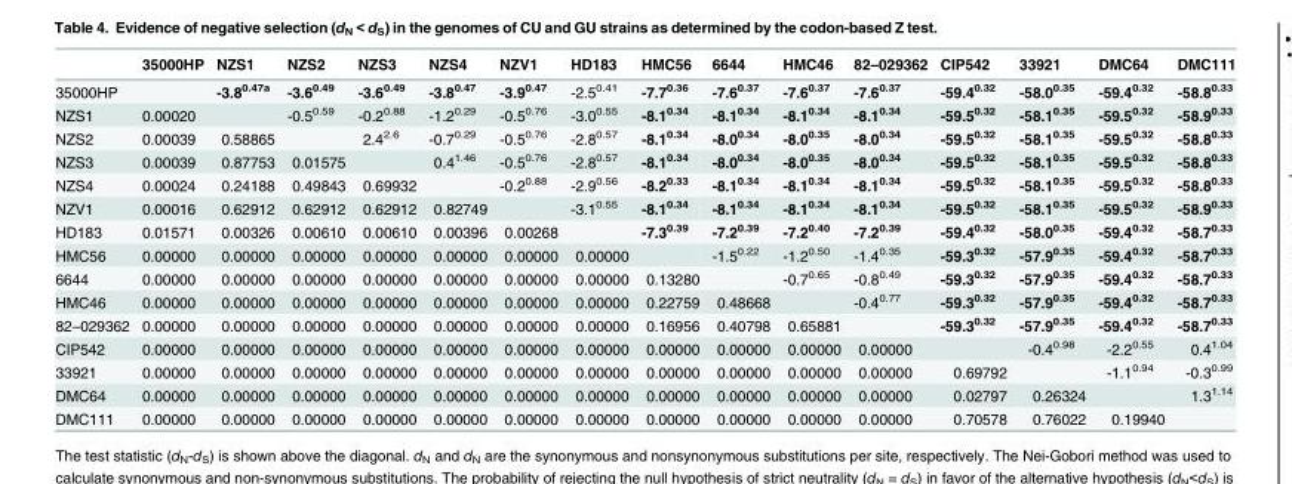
<table><thead><tr><td></td><td>35000HP</td><td>NZS1</td><td>NZS2</td><td>NZS3</td><td>NZS4</td><td>NZV1</td><td>HD183</td><td>HMC56</td><td>6644</td><td>HMC46</td><td>82–029362</td><td>CIP542</td><td>33921</td><td>DMC64</td><td>DMC111</td></tr></thead><tbody><tr><td>35000HP</td><td></td><td>-3.8<sup>0.47a</sup></td><td>-3.6<sup>0.49</sup></td><td>-3.6<sup>0.49</sup></td><td>-3.8<sup>0.47</sup></td><td>-3.9<sup>0.47</sup></td><td>-2.5<sup>0.41</sup></td><td>-7.7<sup>0.36</sup></td><td>-7.6<sup>0.37</sup></td><td>-7.6<sup>0.37</sup></td><td>-7.6<sup>0.37</sup></td><td>-59.4<sup>0.32</sup></td><td>-58.0<sup>0.35</sup></td><td>-59.4<sup>0.32</sup></td><td>-58.8<sup>0.33</sup></td></tr><tr><td>NZS1</td><td>0.00020</td><td></td><td>-0.5<sup>0.59</sup></td><td>-0.2<sup>0.88</sup></td><td>-1.2<sup>0.29</sup></td><td>-0.5<sup>0.76</sup></td><td>-3.0<sup>0.55</sup></td><td>-8.1<sup>0.34</sup></td><td>-8.1<sup>0.34</sup></td><td>-8.1<sup>0.34</sup></td><td>-8.1<sup>0.34</sup></td><td>-59.5<sup>0.32</sup></td><td>-58.1<sup>0.35</sup></td><td>-59.5<sup>0.32</sup></td><td>-58.9<sup>0.33</sup></td></tr><tr><td>NZS2</td><td>0.00039</td><td>0.58865</td><td></td><td>2.4<sup>2.6</sup></td><td>-0.7<sup>0.29</sup></td><td>-0.5<sup>0.76</sup></td><td>-2.8<sup>0.57</sup></td><td>-8.1<sup>0.34</sup></td><td>-8.0<sup>0.34</sup></td><td>-8.0<sup>0.35</sup></td><td>-8.0<sup>0.34</sup></td><td>-59.5<sup>0.32</sup></td><td>-58.1<sup>0.35</sup></td><td>-59.5<sup>0.32</sup></td><td>-58.8<sup>0.33</sup></td></tr><tr><td>NZS3</td><td>0.00039</td><td>0.87753</td><td>0.01575</td><td></td><td>0.4<sup>1.46</sup></td><td>-0.5<sup>0.76</sup></td><td>-2.8<sup>0.57</sup></td><td>-8.1<sup>0.34</sup></td><td>-8.0<sup>0.34</sup></td><td>-8.0<sup>0.35</sup></td><td>-8.0<sup>0.34</sup></td><td>-59.5<sup>0.32</sup></td><td>-58.1<sup>0.35</sup></td><td>-59.5<sup>0.32</sup></td><td>-58.8<sup>0.33</sup></td></tr><tr><td>NZS4</td><td>0.00024</td><td>0.24188</td><td>0.49843</td><td>0.69932</td><td></td><td>-0.2<sup>0.88</sup></td><td>-2.9<sup>0.56</sup></td><td>-8.2<sup>0.33</sup></td><td>-8.1<sup>0.34</sup></td><td>-8.1<sup>0.34</sup></td><td>-8.1<sup>0.34</sup></td><td>-59.5<sup>0.32</sup></td><td>-58.1<sup>0.35</sup></td><td>-59.5<sup>0.32</sup></td><td>-58.8<sup>0.33</sup></td></tr><tr><td>NZV1</td><td>0.00016</td><td>0.62912</td><td>0.62912</td><td>0.62912</td><td>0.82749</td><td></td><td>-3.1<sup>0.55</sup></td><td>-8.1<sup>0.34</sup></td><td>-8.1<sup>0.34</sup></td><td>-8.1<sup>0.34</sup></td><td>-8.1<sup>0.34</sup></td><td>-59.5<sup>0.32</sup></td><td>-58.1<sup>0.35</sup></td><td>-59.5<sup>0.32</sup></td><td>-58.9<sup>0.33</sup></td></tr><tr><td>HD183</td><td>0.01571</td><td>0.00326</td><td>0.00610</td><td>0.00610</td><td>0.00396</td><td>0.00268</td><td></td><td>-7.3<sup>0.39</sup></td><td>-7.2<sup>0.39</sup></td><td>-7.2<sup>0.40</sup></td><td>-7.2<sup>0.39</sup></td><td>-59.4<sup>0.32</sup></td><td>-58.0<sup>0.35</sup></td><td>-59.4<sup>0.32</sup></td><td>-58.7<sup>0.33</sup></td></tr><tr><td>HMC56</td><td>0.00000</td><td>0.00000</td><td>0.00000</td><td>0.00000</td><td>0.00000</td><td>0.00000</td><td>0.00000</td><td></td><td>-1.5<sup>0.22</sup></td><td>-1.2<sup>0.50</sup></td><td>-1.4<sup>0.35</sup></td><td>-59.3<sup>0.32</sup></td><td>-57.9<sup>0.35</sup></td><td>-59.4<sup>0.32</sup></td><td>-58.7<sup>0.33</sup></td></tr><tr><td>6644</td><td>0.00000</td><td>0.00000</td><td>0.00000</td><td>0.00000</td><td>0.00000</td><td>0.00000</td><td>0.00000</td><td>0.13280</td><td></td><td>-0.7<sup>0.65</sup></td><td>-0.8<sup>0.49</sup></td><td>-59.3<sup>0.32</sup></td><td>-57.9<sup>0.35</sup></td><td>-59.4<sup>0.32</sup></td><td>-58.7<sup>0.33</sup></td></tr><tr><td>HMC46</td><td>0.00000</td><td>0.00000</td><td>0.00000</td><td>0.00000</td><td>0.00000</td><td>0.00000</td><td>0.00000</td><td>0.22759</td><td>0.48668</td><td></td><td>-0.4<sup>0.77</sup></td><td>-59.3<sup>0.32</sup></td><td>-57.9<sup>0.35</sup></td><td>-59.4<sup>0.32</sup></td><td>-58.7<sup>0.33</sup></td></tr><tr><td>82–029362</td><td>0.00000</td><td>0.00000</td><td>0.00000</td><td>0.00000</td><td>0.00000</td><td>0.00000</td><td>0.00000</td><td>0.16956</td><td>0.40798</td><td>0.65881</td><td></td><td>-59.3<sup>0.32</sup></td><td>-57.9<sup>0.35</sup></td><td>-59.4<sup>0.32</sup></td><td>-58.7<sup>0.33</sup></td></tr><tr><td>CIP542</td><td>0.00000</td><td>0.00000</td><td>0.00000</td><td>0.00000</td><td>0.00000</td><td>0.00000</td><td>0.00000</td><td>0.00000</td><td>0.00000</td><td>0.00000</td><td>0.00000</td><td></td><td>-0.4<sup>0.98</sup></td><td>-2.2<sup>0.55</sup></td><td>0.4<sup>1.04</sup></td></tr><tr><td>33921</td><td>0.00000</td><td>0.00000</td><td>0.00000</td><td>0.00000</td><td>0.00000</td><td>0.00000</td><td>0.00000</td><td>0.00000</td><td>0.00000</td><td>0.00000</td><td>0.00000</td><td>0.69792</td><td></td><td>-1.1<sup>0.94</sup></td><td>-0.3<sup>0.99</sup></td></tr><tr><td>DMC64</td><td>0.00000</td><td>0.00000</td><td>0.00000</td><td>0.00000</td><td>0.00000</td><td>0.00000</td><td>0.00000</td><td>0.00000</td><td>0.00000</td><td>0.00000</td><td>0.00000</td><td>0.02797</td><td>0.26324</td><td></td><td>1.3<sup>1.14</sup></td></tr><tr><td>DMC111</td><td>0.00000</td><td>0.00000</td><td>0.00000</td><td>0.00000</td><td>0.00000</td><td>0.00000</td><td>0.00000</td><td>0.00000</td><td>0.00000</td><td>0.00000</td><td>0.00000</td><td>0.70578</td><td>0.76022</td><td>0.19940</td><td></td></tr></tbody></table>